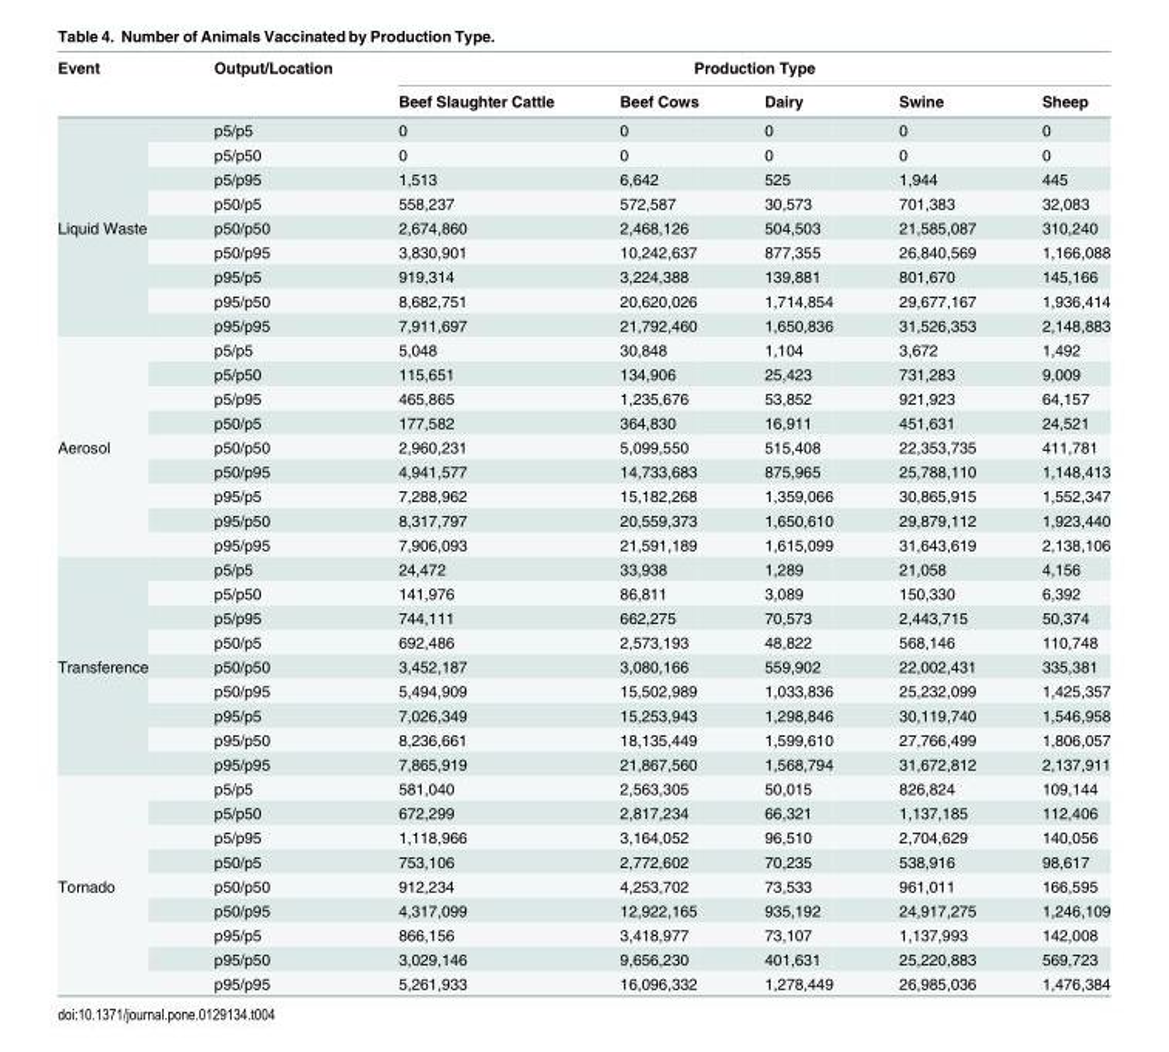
<table><thead><tr><td rowspan="2">Event</td><td rowspan="2">Output/Location</td><td colspan="5">Production Type</td></tr><tr><td>Beef Slaughter Cattle</td><td>Beef Cows</td><td>Dairy</td><td>Swine</td><td>Sheep</td></tr></thead><tbody><tr><td rowspan="9">Liquid Waste</td><td>p5/p5</td><td>0</td><td>0</td><td>0</td><td>0</td><td>0</td></tr><tr><td>p5/p50</td><td>0</td><td>0</td><td>0</td><td>0</td><td>0</td></tr><tr><td>p5/p95</td><td>1,513</td><td>6,642</td><td>525</td><td>1,944</td><td>445</td></tr><tr><td>p50/p5</td><td>558,237</td><td>572,587</td><td>30,573</td><td>701,383</td><td>32,083</td></tr><tr><td>p50/p50</td><td>2,674,860</td><td>2,468,126</td><td>504,503</td><td>21,585,087</td><td>310,240</td></tr><tr><td>p50/p95</td><td>3,830,901</td><td>10,242,637</td><td>877,355</td><td>26,840,569</td><td>1,166,088</td></tr><tr><td>p95/p5</td><td>919,314</td><td>3,224,388</td><td>139,881</td><td>801,670</td><td>145,166</td></tr><tr><td>p95/p50</td><td>8,682,751</td><td>20,620,026</td><td>1,714,854</td><td>29,677,167</td><td>1,936,414</td></tr><tr><td>p95/p95</td><td>7,911,697</td><td>21,792,460</td><td>1,650,836</td><td>31,526,353</td><td>2,148,883</td></tr><tr><td rowspan="9">Aerosol</td><td>p5/p5</td><td>5,048</td><td>30,848</td><td>1,104</td><td>3,672</td><td>1,492</td></tr><tr><td>p5/p50</td><td>115,651</td><td>134,906</td><td>25,423</td><td>731,283</td><td>9,009</td></tr><tr><td>p5/p95</td><td>465,865</td><td>1,235,676</td><td>53,852</td><td>921,923</td><td>64,157</td></tr><tr><td>p50/p5</td><td>177,582</td><td>364,830</td><td>16,911</td><td>451,631</td><td>24,521</td></tr><tr><td>p50/p50</td><td>2,960,231</td><td>5,099,550</td><td>515,408</td><td>22,353,735</td><td>411,781</td></tr><tr><td>p50/p95</td><td>4,941,577</td><td>14,733,683</td><td>875,965</td><td>25,788,110</td><td>1,148,413</td></tr><tr><td>p95/p5</td><td>7,288,962</td><td>15,182,268</td><td>1,359,066</td><td>30,865,915</td><td>1,552,347</td></tr><tr><td>p95/p50</td><td>8,317,797</td><td>20,559,373</td><td>1,650,610</td><td>29,879,112</td><td>1,923,440</td></tr><tr><td>p95/p95</td><td>7,906,093</td><td>21,591,189</td><td>1,615,099</td><td>31,643,619</td><td>2,138,106</td></tr><tr><td rowspan="9">Transference</td><td>p5/p5</td><td>24,472</td><td>33,938</td><td>1,289</td><td>21,058</td><td>4,156</td></tr><tr><td>p5/p50</td><td>141,976</td><td>86,811</td><td>3,089</td><td>150,330</td><td>6,392</td></tr><tr><td>p5/p95</td><td>744,111</td><td>662,275</td><td>70,573</td><td>2,443,715</td><td>50,374</td></tr><tr><td>p50/p5</td><td>692,486</td><td>2,573,193</td><td>48,822</td><td>568,146</td><td>110,748</td></tr><tr><td>p50/p50</td><td>3,452,187</td><td>3,080,166</td><td>559,902</td><td>22,002,431</td><td>335,381</td></tr><tr><td>p50/p95</td><td>5,494,909</td><td>15,502,989</td><td>1,033,836</td><td>25,232,099</td><td>1,425,357</td></tr><tr><td>p95/p5</td><td>7,026,349</td><td>15,253,943</td><td>1,298,846</td><td>30,119,740</td><td>1,546,958</td></tr><tr><td>p95/p50</td><td>8,236,661</td><td>18,135,449</td><td>1,599,610</td><td>27,766,499</td><td>1,806,057</td></tr><tr><td>p95/p95</td><td>7,865,919</td><td>21,867,560</td><td>1,568,794</td><td>31,672,812</td><td>2,137,911</td></tr><tr><td rowspan="9">Tornado</td><td>p5/p5</td><td>581,040</td><td>2,563,305</td><td>50,015</td><td>826,824</td><td>109,144</td></tr><tr><td>p5/p50</td><td>672,299</td><td>2,817,234</td><td>66,321</td><td>1,137,185</td><td>112,406</td></tr><tr><td>p5/p95</td><td>1,118,966</td><td>3,164,052</td><td>96,510</td><td>2,704,629</td><td>140,056</td></tr><tr><td>p50/p5</td><td>753,106</td><td>2,772,602</td><td>70,235</td><td>538,916</td><td>98,617</td></tr><tr><td>p50/p50</td><td>912,234</td><td>4,253,702</td><td>73,533</td><td>961,011</td><td>166,595</td></tr><tr><td>p50/p95</td><td>4,317,099</td><td>12,922,165</td><td>935,192</td><td>24,917,275</td><td>1,246,109</td></tr><tr><td>p95/p5</td><td>866,156</td><td>3,418,977</td><td>73,107</td><td>1,137,993</td><td>142,008</td></tr><tr><td>p95/p50</td><td>3,029,146</td><td>9,656,230</td><td>401,631</td><td>25,220,883</td><td>569,723</td></tr><tr><td>p95/p95</td><td>5,261,933</td><td>16,096,332</td><td>1,278,449</td><td>26,985,036</td><td>1,476,384</td></tr></tbody></table>